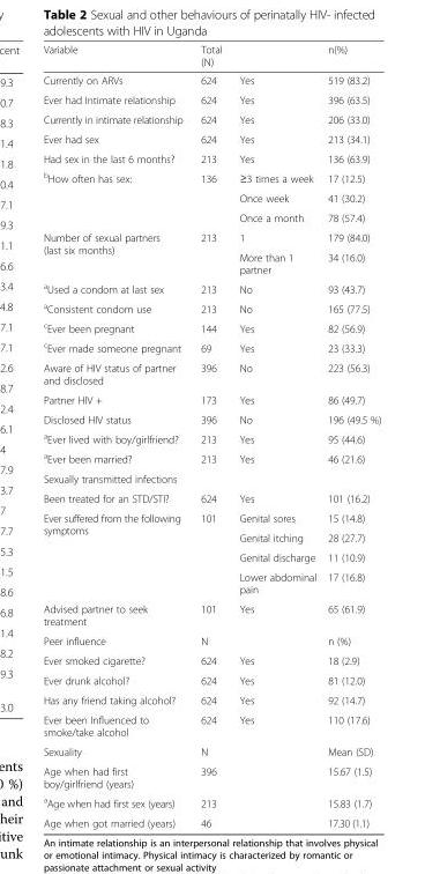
<table><thead><tr><td>Variable</td><td>Total (N)</td><td></td><td>n(%)</td></tr></thead><tbody><tr><td>Currently on ARVs</td><td>624</td><td>Yes</td><td>519 (83.2)</td></tr><tr><td>Ever had Intimate relationship</td><td>624</td><td>Yes</td><td>396 (63.5)</td></tr><tr><td>Currently in intimate relationship</td><td>624</td><td>Yes</td><td>206 (33.0)</td></tr><tr><td>Ever had sex</td><td>624</td><td>Yes</td><td>213 (34.1)</td></tr><tr><td>Had sex in the last 6 months?</td><td>213</td><td>Yes</td><td>136 (63.9)</td></tr><tr><td rowspan="3"><sup>b</sup>How often has sex:</td><td rowspan="3">136</td><td>≥3 times a week</td><td>17 (12.5)</td></tr><tr><td>Once week</td><td>41 (30.2)</td></tr><tr><td>Once a month</td><td>78 (57.4)</td></tr><tr><td rowspan="2">Number of sexual partners (last six months)</td><td rowspan="2">213</td><td>1</td><td>179 (84.0)</td></tr><tr><td>More than 1 partner</td><td>34 (16.0)</td></tr><tr><td><sup>a</sup>Used a condom at last sex</td><td>213</td><td>No</td><td>93 (43.7)</td></tr><tr><td><sup>a</sup>Consistent condom use</td><td>213</td><td>No</td><td>165 (77.5)</td></tr><tr><td><sup>c</sup>Ever been pregnant</td><td>144</td><td>Yes</td><td>82 (56.9)</td></tr><tr><td><sup>c</sup>Ever made someone pregnant</td><td>69</td><td>Yes</td><td>23 (33.3)</td></tr><tr><td>Aware of HIV status of partner and disclosed</td><td>396</td><td>No</td><td>223 (56.3)</td></tr><tr><td>Partner HIV +</td><td>173</td><td>Yes</td><td>86 (49.7)</td></tr><tr><td>Disclosed HIV status</td><td>396</td><td>No</td><td>196 (49.5 %)</td></tr><tr><td><sup>a</sup>Ever lived with boy/girlfriend?</td><td>213</td><td>Yes</td><td>95 (44.6)</td></tr><tr><td><sup>a</sup>Ever been married?</td><td>213</td><td>Yes</td><td>46 (21.6)</td></tr><tr><td colspan="4">Sexually transmitted infections</td></tr><tr><td>Been treated for an STD/STI?</td><td>624</td><td>Yes</td><td>101 (16.2)</td></tr><tr><td rowspan="4">Ever suffered from the following symptoms</td><td rowspan="4">101</td><td>Genital sores</td><td>15 (14.8)</td></tr><tr><td>Genital itching</td><td>28 (27.7)</td></tr><tr><td>Genital discharge</td><td>11 (10.9)</td></tr><tr><td>Lower abdominal pain</td><td>17 (16.8)</td></tr><tr><td>Advised partner to seek treatment</td><td>101</td><td>Yes</td><td>65 (61.9)</td></tr><tr><td>Peer influence</td><td>N</td><td></td><td>n (%)</td></tr><tr><td>Ever smoked cigarette?</td><td>624</td><td>Yes</td><td>18 (2.9)</td></tr><tr><td>Ever drunk alcohol?</td><td>624</td><td>Yes</td><td>81 (12.0)</td></tr><tr><td>Has any friend taking alcohol?</td><td>624</td><td>Yes</td><td>92 (14.7)</td></tr><tr><td>Ever been Influenced to smoke/take alcohol</td><td>624</td><td>Yes</td><td>110 (17.6)</td></tr><tr><td>Sexuality</td><td>N</td><td></td><td>Mean (SD)</td></tr><tr><td>Age when had first boy/girlfriend (years)</td><td>396</td><td></td><td>15.67 (1.5)</td></tr><tr><td><sup>a</sup>Age when had first sex (years)</td><td>213</td><td></td><td>15.83 (1.7)</td></tr><tr><td>Age when got married (years)</td><td>46</td><td></td><td>17.30 (1.1)</td></tr></tbody></table>